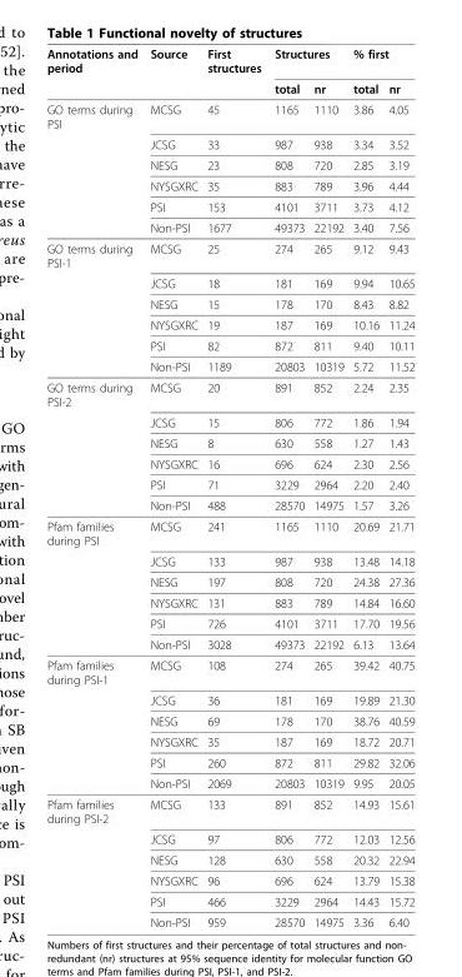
<table><thead><tr><td rowspan="2">Annotations and period</td><td rowspan="2">Source</td><td rowspan="2">First structures</td><td colspan="2">Structures</td><td colspan="2">% first</td></tr><tr><td>total</td><td>nr</td><td>total</td><td>nr</td></tr></thead><tbody><tr><td rowspan="6">GO terms during PSI</td><td>MCSG</td><td>45</td><td>1165</td><td>1110</td><td>3.86</td><td>4.05</td></tr><tr><td>JCSG</td><td>33</td><td>987</td><td>938</td><td>3.34</td><td>3.52</td></tr><tr><td>NESG</td><td>23</td><td>808</td><td>720</td><td>2.85</td><td>3.19</td></tr><tr><td>NYSGXRC</td><td>35</td><td>883</td><td>789</td><td>3.96</td><td>4.44</td></tr><tr><td>PSI</td><td>153</td><td>4101</td><td>3711</td><td>3.73</td><td>4.12</td></tr><tr><td>Non-PSI</td><td>1677</td><td>49373</td><td>22192</td><td>3.40</td><td>7.56</td></tr><tr><td rowspan="6">GO terms during PSI-1</td><td>MCSG</td><td>25</td><td>274</td><td>265</td><td>9.12</td><td>9.43</td></tr><tr><td>JCSG</td><td>18</td><td>181</td><td>169</td><td>9.94</td><td>10.65</td></tr><tr><td>NESG</td><td>15</td><td>178</td><td>170</td><td>8.43</td><td>8.82</td></tr><tr><td>NYSGXRC</td><td>19</td><td>187</td><td>169</td><td>10.16</td><td>11.24</td></tr><tr><td>PSI</td><td>82</td><td>872</td><td>811</td><td>9.40</td><td>10.11</td></tr><tr><td>Non-PSI</td><td>1189</td><td>20803</td><td>10319</td><td>5.72</td><td>11.52</td></tr><tr><td rowspan="6">GO terms during PSI-2</td><td>MCSG</td><td>20</td><td>891</td><td>852</td><td>2.24</td><td>2.35</td></tr><tr><td>JCSG</td><td>15</td><td>806</td><td>772</td><td>1.86</td><td>1.94</td></tr><tr><td>NESG</td><td>8</td><td>630</td><td>558</td><td>1.27</td><td>1.43</td></tr><tr><td>NYSGXRC</td><td>16</td><td>696</td><td>624</td><td>2.30</td><td>2.56</td></tr><tr><td>PSI</td><td>71</td><td>3229</td><td>2964</td><td>2.20</td><td>2.40</td></tr><tr><td>Non-PSI</td><td>488</td><td>28570</td><td>14975</td><td>1.57</td><td>3.26</td></tr><tr><td rowspan="6">Pfam families during PSI</td><td>MCSG</td><td>241</td><td>1165</td><td>1110</td><td>20.69</td><td>21.71</td></tr><tr><td>JCSG</td><td>133</td><td>987</td><td>938</td><td>13.48</td><td>14.18</td></tr><tr><td>NESG</td><td>197</td><td>808</td><td>720</td><td>24.38</td><td>27.36</td></tr><tr><td>NYSGXRC</td><td>131</td><td>883</td><td>789</td><td>14.84</td><td>16.60</td></tr><tr><td>PSI</td><td>726</td><td>4101</td><td>3711</td><td>17.70</td><td>19.56</td></tr><tr><td>Non-PSI</td><td>3028</td><td>49373</td><td>22192</td><td>6.13</td><td>13.64</td></tr><tr><td rowspan="6">Pfam families during PSI-1</td><td>MCSG</td><td>108</td><td>274</td><td>265</td><td>39.42</td><td>40.75</td></tr><tr><td>JCSG</td><td>36</td><td>181</td><td>169</td><td>19.89</td><td>21.30</td></tr><tr><td>NESG</td><td>69</td><td>178</td><td>170</td><td>38.76</td><td>40.59</td></tr><tr><td>NYSGXRC</td><td>35</td><td>187</td><td>169</td><td>18.72</td><td>20.71</td></tr><tr><td>PSI</td><td>260</td><td>872</td><td>811</td><td>29.82</td><td>32.06</td></tr><tr><td>Non-PSI</td><td>2069</td><td>20803</td><td>10319</td><td>9.95</td><td>20.05</td></tr><tr><td rowspan="6">Pfam families during PSI-2</td><td>MCSG</td><td>133</td><td>891</td><td>852</td><td>14.93</td><td>15.61</td></tr><tr><td>JCSG</td><td>97</td><td>806</td><td>772</td><td>12.03</td><td>12.56</td></tr><tr><td>NESG</td><td>128</td><td>630</td><td>558</td><td>20.32</td><td>22.94</td></tr><tr><td>NYSGXRC</td><td>96</td><td>696</td><td>624</td><td>13.79</td><td>15.38</td></tr><tr><td>PSI</td><td>466</td><td>3229</td><td>2964</td><td>14.43</td><td>15.72</td></tr><tr><td>Non-PSI</td><td>959</td><td>28570</td><td>14975</td><td>3.36</td><td>6.40</td></tr></tbody></table>